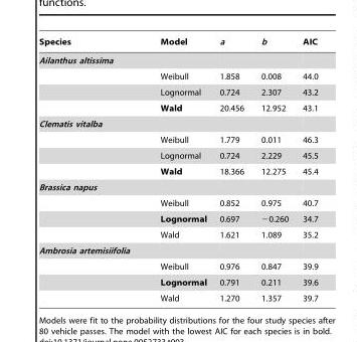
<table><thead><tr><td>Species</td><td>Model</td><td>a</td><td>b</td><td>AIC</td></tr></thead><tbody><tr><td colspan="5">Ailanthus altissima</td></tr><tr><td></td><td>Weibull</td><td>1.858</td><td>0.008</td><td>44.0</td></tr><tr><td></td><td>Lognormal</td><td>0.724</td><td>2.307</td><td>43.2</td></tr><tr><td></td><td>Wald</td><td>20.456</td><td>12.952</td><td>43.1</td></tr><tr><td colspan="5">Clematis vitalba</td></tr><tr><td></td><td>Weibull</td><td>1.779</td><td>0.011</td><td>46.3</td></tr><tr><td></td><td>Lognormal</td><td>0.724</td><td>2.229</td><td>45.5</td></tr><tr><td></td><td>Wald</td><td>18.366</td><td>12.275</td><td>45.4</td></tr><tr><td colspan="5">Brassica napus</td></tr><tr><td></td><td>Weibull</td><td>0.852</td><td>0.975</td><td>40.7</td></tr><tr><td></td><td>Lognormal</td><td>0.697</td><td>−0.260</td><td>34.7</td></tr><tr><td></td><td>Wald</td><td>1.621</td><td>1.089</td><td>35.2</td></tr><tr><td colspan="5">Ambrosia artemisiifolia</td></tr><tr><td></td><td>Weibull</td><td>0.976</td><td>0.847</td><td>39.9</td></tr><tr><td></td><td>Lognormal</td><td>0.791</td><td>0.211</td><td>39.6</td></tr><tr><td></td><td>Wald</td><td>1.270</td><td>1.357</td><td>39.7</td></tr></tbody></table>